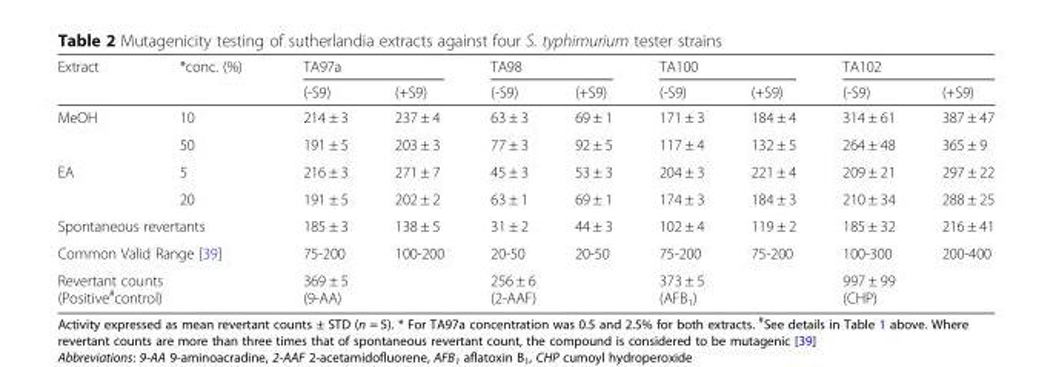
<table><thead><tr><td rowspan="2">Extract</td><td rowspan="2">*conc. (%)</td><td colspan="2">TA97a</td><td colspan="2">TA98</td><td colspan="2">TA100</td><td colspan="2">TA102</td></tr><tr><td>(-S9)</td><td>(+S9)</td><td>(-S9)</td><td>(+S9)</td><td>(-S9)</td><td>(+S9)</td><td>(-S9)</td><td>(+S9)</td></tr></thead><tbody><tr><td rowspan="2">MeOH</td><td>10</td><td>214 ± 3</td><td>237 ± 4</td><td>63 ± 3</td><td>69 ± 1</td><td>171 ± 3</td><td>184 ± 4</td><td>314 ± 61</td><td>387 ± 47</td></tr><tr><td>50</td><td>191 ± 5</td><td>203 ± 3</td><td>77 ± 3</td><td>92 ± 5</td><td>117 ± 4</td><td>132 ± 5</td><td>264 ± 48</td><td>365 ± 9</td></tr><tr><td rowspan="2">EA</td><td>5</td><td>216 ± 3</td><td>271 ± 7</td><td>45 ± 3</td><td>53 ± 3</td><td>204 ± 3</td><td>221 ± 4</td><td>209 ± 21</td><td>297 ± 22</td></tr><tr><td>20</td><td>191 ± 5</td><td>202 ± 2</td><td>63 ± 1</td><td>69 ± 1</td><td>174 ± 3</td><td>184 ± 3</td><td>210 ± 34</td><td>288 ± 25</td></tr><tr><td colspan="2">Spontaneous revertants</td><td>185 ± 3</td><td>138 ± 5</td><td>31 ± 2</td><td>44 ± 3</td><td>102 ± 4</td><td>119 ± 2</td><td>185 ± 32</td><td>216 ± 41</td></tr><tr><td colspan="2">Common Valid Range [39]</td><td>75-200</td><td>100-200</td><td>20-50</td><td>20-50</td><td>75-200</td><td>75-200</td><td>100-300</td><td>200-400</td></tr><tr><td colspan="2">Revertant counts (Positive<sup>#</sup>control)</td><td colspan="2">369 ± 5 (9-AA)</td><td colspan="2">256 ± 6 (2-AAF)</td><td colspan="2">373 ± 5 (AFB<sub>1</sub>)</td><td colspan="2">997 ± 99 (CHP)</td></tr></tbody></table>